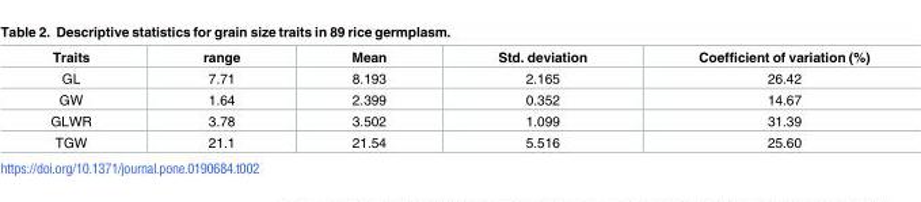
<table><thead><tr><td>Traits</td><td>range</td><td>Mean</td><td>Std. deviation</td><td>Coefficient of variation (%)</td></tr></thead><tbody><tr><td>GL</td><td>7.71</td><td>8.193</td><td>2.165</td><td>26.42</td></tr><tr><td>GW</td><td>1.64</td><td>2.399</td><td>0.352</td><td>14.67</td></tr><tr><td>GLWR</td><td>3.78</td><td>3.502</td><td>1.099</td><td>31.39</td></tr><tr><td>TGW</td><td>21.1</td><td>21.54</td><td>5.516</td><td>25.60</td></tr></tbody></table>